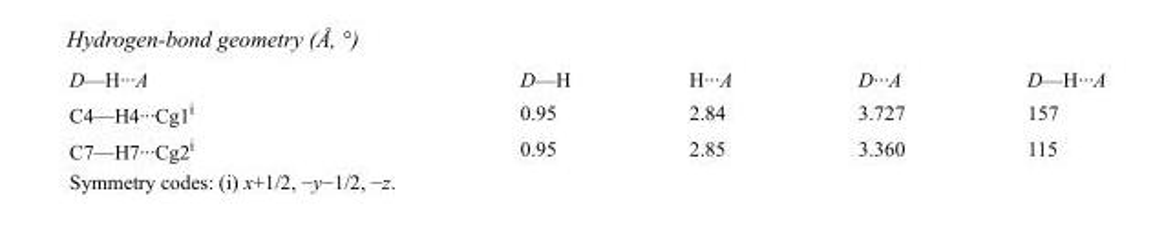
<table><tbody><tr><td>D—H···A</td><td>D—H</td><td>H···A</td><td>D···A</td><td>D—H···A</td></tr><tr><td>C4—H4···Cg1<sup>i</sup></td><td>0.95</td><td>2.84</td><td>3.727</td><td>157</td></tr><tr><td>C7—H7···Cg2<sup>i</sup></td><td>0.95</td><td>2.85</td><td>3.360</td><td>115</td></tr></tbody></table>